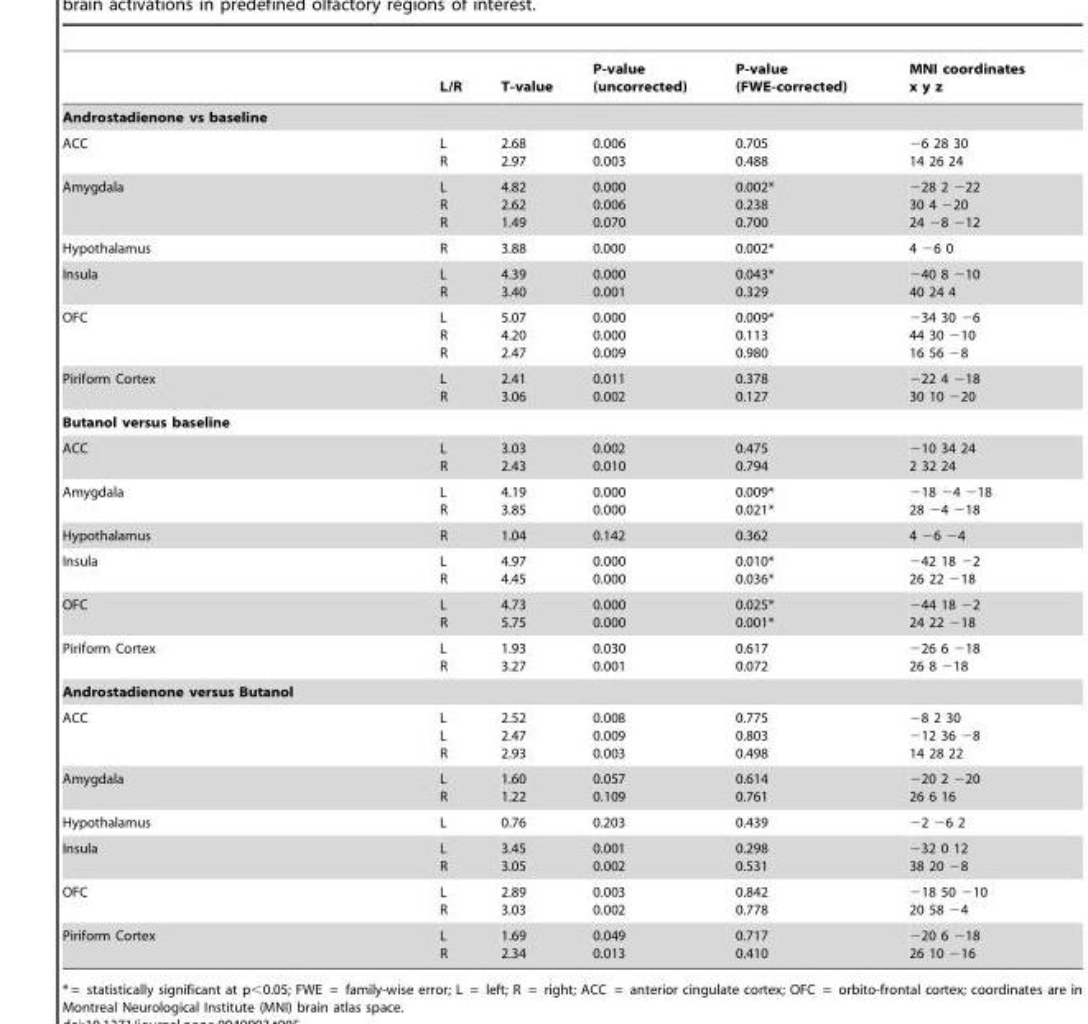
<table><thead><tr><td></td><td>L/R</td><td>T-value</td><td>P-value (uncorrected)</td><td>P-value (FWE-corrected)</td><td>MNI coordinates x y z</td></tr></thead><tbody><tr><td colspan="6">Androstadienone vs baseline</td></tr><tr><td>ACC</td><td>L R</td><td>2.68 2.97</td><td>0.006 0.003</td><td>0.705 0.488</td><td>−6 28 30 14 26 24</td></tr><tr><td>Amygdala</td><td>L R R</td><td>4.82 2.62 1.49</td><td>0.000 0.006 0.070</td><td>0.002* 0.238 0.700</td><td>−28 2 −22 30 4 −20 24 −8 −12</td></tr><tr><td>Hypothalamus</td><td>R</td><td>3.88</td><td>0.000</td><td>0.002*</td><td>4 −6 0</td></tr><tr><td>Insula</td><td>L R</td><td>4.39 3.40</td><td>0.000 0.001</td><td>0.043* 0.329</td><td>−40 8 −10 40 24 4</td></tr><tr><td>OFC</td><td>L R R</td><td>5.07 4.20 2.47</td><td>0.000 0.000 0.009</td><td>0.009* 0.113 0.980</td><td>−34 30 −6 44 30 −10 16 56 −8</td></tr><tr><td>Piriform Cortex</td><td>L R</td><td>2.41 3.06</td><td>0.011 0.002</td><td>0.378 0.127</td><td>−22 4 −18 30 10 −20</td></tr><tr><td colspan="6">Butanol versus baseline</td></tr><tr><td>ACC</td><td>L R</td><td>3.03 2.43</td><td>0.002 0.010</td><td>0.475 0.794</td><td>−10 34 24 2 32 24</td></tr><tr><td>Amygdala</td><td>L R</td><td>4.19 3.85</td><td>0.000 0.000</td><td>0.009* 0.021*</td><td>−18 −4 −18 28 −4 −18</td></tr><tr><td>Hypothalamus</td><td>R</td><td>1.04</td><td>0.142</td><td>0.362</td><td>4 −6 −4</td></tr><tr><td>Insula</td><td>L R</td><td>4.97 4.45</td><td>0.000 0.000</td><td>0.010* 0.036*</td><td>−42 18 −2 26 22 −18</td></tr><tr><td>OFC</td><td>L R</td><td>4.73 5.75</td><td>0.000 0.000</td><td>0.025* 0.001*</td><td>−44 18 −2 24 22 −18</td></tr><tr><td>Piriform Cortex</td><td>L R</td><td>1.93 3.27</td><td>0.030 0.001</td><td>0.617 0.072</td><td>−26 6 −18 26 8 −18</td></tr><tr><td colspan="6">Androstadienone versus Butanol</td></tr><tr><td>ACC</td><td>L L R</td><td>2.52 2.47 2.93</td><td>0.008 0.009 0.003</td><td>0.775 0.803 0.498</td><td>−8 2 30 −12 36 −8 14 28 22</td></tr><tr><td>Amygdala</td><td>L R</td><td>1.60 1.22</td><td>0.057 0.109</td><td>0.614 0.761</td><td>−20 2 −20 26 6 16</td></tr><tr><td>Hypothalamus</td><td>L</td><td>0.76</td><td>0.203</td><td>0.439</td><td>−2 −6 2</td></tr><tr><td>Insula</td><td>L R</td><td>3.45 3.05</td><td>0.001 0.002</td><td>0.298 0.531</td><td>−32 0 12 38 20 −8</td></tr><tr><td>OFC</td><td>L R</td><td>2.89 3.03</td><td>0.003 0.002</td><td>0.842 0.778</td><td>−18 50 −10 20 58 −4</td></tr><tr><td>Piriform Cortex</td><td>L R</td><td>1.69 2.34</td><td>0.049 0.013</td><td>0.717 0.410</td><td>−20 6 −18 26 10 −16</td></tr></tbody></table>